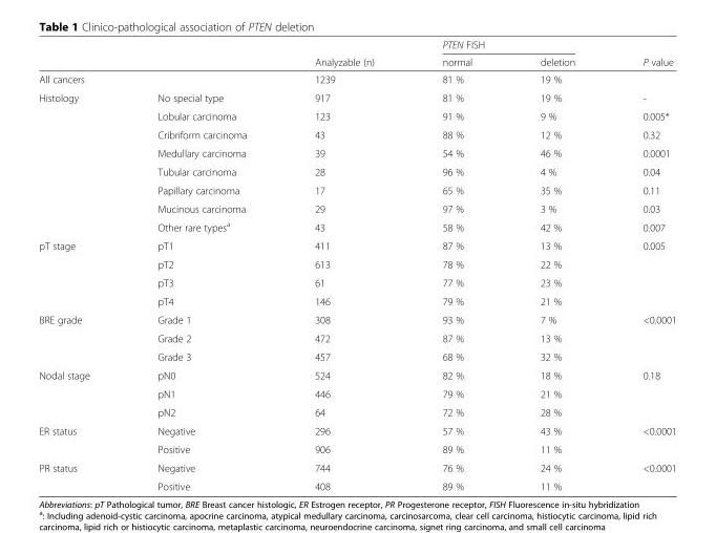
<table><thead><tr><td rowspan="2"></td><td rowspan="2"></td><td rowspan="2">Analyzable (n)</td><td colspan="2">PTEN FISH</td><td rowspan="2">P value</td></tr><tr><td>normal</td><td>deletion</td></tr></thead><tbody><tr><td>All cancers</td><td></td><td>1239</td><td>81 %</td><td>19 %</td><td></td></tr><tr><td rowspan="8">Histology</td><td>No special type</td><td>917</td><td>81 %</td><td>19 %</td><td>-</td></tr><tr><td>Lobular carcinoma</td><td>123</td><td>91 %</td><td>9 %</td><td>0.005*</td></tr><tr><td>Cribriform carcinoma</td><td>43</td><td>88 %</td><td>12 %</td><td>0.32</td></tr><tr><td>Medullary carcinoma</td><td>39</td><td>54 %</td><td>46 %</td><td>0.0001</td></tr><tr><td>Tubular carcinoma</td><td>28</td><td>96 %</td><td>4 %</td><td>0.04</td></tr><tr><td>Papillary carcinoma</td><td>17</td><td>65 %</td><td>35 %</td><td>0.11</td></tr><tr><td>Mucinous carcinoma</td><td>29</td><td>97 %</td><td>3 %</td><td>0.03</td></tr><tr><td>Other rare types<sup>a</sup></td><td>43</td><td>58 %</td><td>42 %</td><td>0.007</td></tr><tr><td rowspan="4">pT stage</td><td>pT1</td><td>411</td><td>87 %</td><td>13 %</td><td rowspan="4">0.005</td></tr><tr><td>pT2</td><td>613</td><td>78 %</td><td>22 %</td></tr><tr><td>pT3</td><td>61</td><td>77 %</td><td>23 %</td></tr><tr><td>pT4</td><td>146</td><td>79 %</td><td>21 %</td></tr><tr><td rowspan="3">BRE grade</td><td>Grade 1</td><td>308</td><td>93 %</td><td>7 %</td><td rowspan="3">&lt;0.0001</td></tr><tr><td>Grade 2</td><td>472</td><td>87 %</td><td>13 %</td></tr><tr><td>Grade 3</td><td>457</td><td>68 %</td><td>32 %</td></tr><tr><td rowspan="3">Nodal stage</td><td>pN0</td><td>524</td><td>82 %</td><td>18 %</td><td rowspan="3">0.18</td></tr><tr><td>pN1</td><td>446</td><td>79 %</td><td>21 %</td></tr><tr><td>pN2</td><td>64</td><td>72 %</td><td>28 %</td></tr><tr><td rowspan="2">ER status</td><td>Negative</td><td>296</td><td>57 %</td><td>43 %</td><td rowspan="2">&lt;0.0001</td></tr><tr><td>Positive</td><td>906</td><td>89 %</td><td>11 %</td></tr><tr><td rowspan="2">PR status</td><td>Negative</td><td>744</td><td>76 %</td><td>24 %</td><td rowspan="2">&lt;0.0001</td></tr><tr><td>Positive</td><td>408</td><td>89 %</td><td>11 %</td></tr></tbody></table>